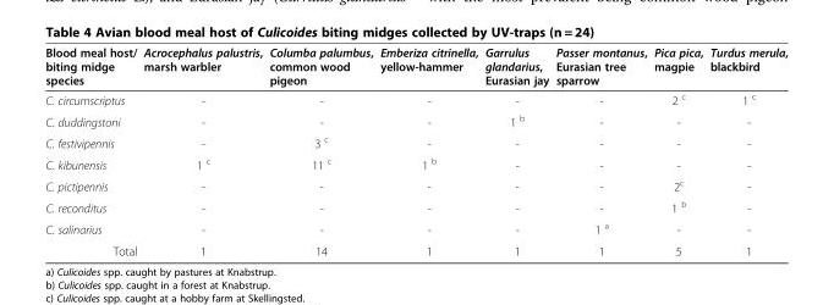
<table><thead><tr><td>Blood meal host/ biting midge species</td><td>Acrocephalus palustris, marsh warbler</td><td>Columba palumbus, common wood pigeon</td><td>Emberiza citrinella, yellow-hammer</td><td>Garrulus glandarius, Eurasian jay</td><td>Passer montanus, Eurasian tree sparrow</td><td>Pica pica, magpie</td><td>Turdus merula, blackbird</td></tr></thead><tbody><tr><td>C. circumscriptus</td><td>-</td><td>-</td><td>-</td><td>-</td><td>-</td><td>2 <sup>c</sup></td><td>1 <sup>c</sup></td></tr><tr><td>C. duddingstoni</td><td>-</td><td>-</td><td>-</td><td>1 <sup>b</sup></td><td>-</td><td>-</td><td>-</td></tr><tr><td>C. festivipennis</td><td>-</td><td>3 <sup>c</sup></td><td>-</td><td>-</td><td>-</td><td>-</td><td>-</td></tr><tr><td>C. kibunensis</td><td>1 <sup>c</sup></td><td>11 <sup>c</sup></td><td>1 <sup>b</sup></td><td>-</td><td>-</td><td>-</td><td>-</td></tr><tr><td>C. pictipennis</td><td>-</td><td>-</td><td>-</td><td>-</td><td>-</td><td>2<sup>c</sup></td><td>-</td></tr><tr><td>C. reconditus</td><td>-</td><td>-</td><td>-</td><td>-</td><td>-</td><td>1 <sup>b</sup></td><td>-</td></tr><tr><td>C. salinarius</td><td>-</td><td>-</td><td>-</td><td>-</td><td>1 <sup>a</sup></td><td>-</td><td>-</td></tr><tr><td>Total</td><td>1</td><td>14</td><td>1</td><td>1</td><td>1</td><td>5</td><td>1</td></tr></tbody></table>